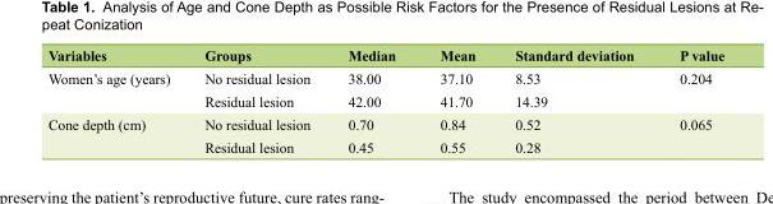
<table><thead><tr><td>Variables</td><td>Groups</td><td>Median</td><td>Mean</td><td>Standard deviation</td><td>P value</td></tr></thead><tbody><tr><td rowspan="2">Women’s age (years)</td><td>No residual lesion</td><td>38.00</td><td>37.10</td><td>8.53</td><td rowspan="2">0.204</td></tr><tr><td>Residual lesion</td><td>42.00</td><td>41.70</td><td>14.39</td></tr><tr><td rowspan="2">Cone depth (cm)</td><td>No residual lesion</td><td>0.70</td><td>0.84</td><td>0.52</td><td rowspan="2">0.065</td></tr><tr><td>Residual lesion</td><td>0.45</td><td>0.55</td><td>0.28</td></tr></tbody></table>